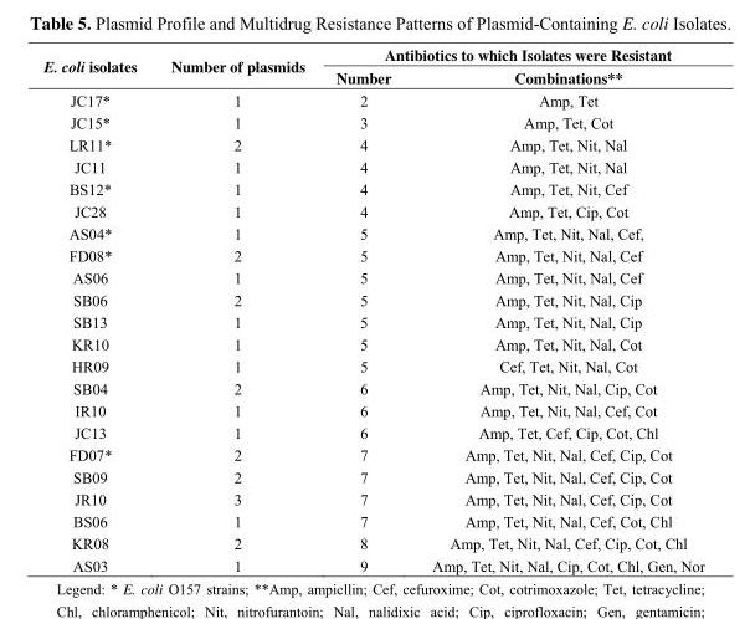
<table><thead><tr><td rowspan="2">E. coli isolates</td><td rowspan="2">Number of plasmids</td><td colspan="2">Antibiotics to which Isolates were Resistant</td></tr><tr><td>Number</td><td>Combinations**</td></tr></thead><tbody><tr><td>JC17*</td><td>1</td><td>2</td><td>Amp, Tet</td></tr><tr><td>JC15*</td><td>1</td><td>3</td><td>Amp, Tet, Cot</td></tr><tr><td>LR11*</td><td>2</td><td>4</td><td>Amp, Tet, Nit, Nal</td></tr><tr><td>JC11</td><td>1</td><td>4</td><td>Amp, Tet, Nit, Nal</td></tr><tr><td>BS12*</td><td>1</td><td>4</td><td>Amp, Tet, Nit, Cef</td></tr><tr><td>JC28</td><td>1</td><td>4</td><td>Amp, Tet, Cip, Cot</td></tr><tr><td>AS04*</td><td>1</td><td>5</td><td>Amp, Tet, Nit, Nal, Cef,</td></tr><tr><td>FD08*</td><td>2</td><td>5</td><td>Amp, Tet, Nit, Nal, Cef</td></tr><tr><td>AS06</td><td>1</td><td>5</td><td>Amp, Tet, Nit, Nal, Cef</td></tr><tr><td>SB06</td><td>2</td><td>5</td><td>Amp, Tet, Nit, Nal, Cip</td></tr><tr><td>SB13</td><td>1</td><td>5</td><td>Amp, Tet, Nit, Nal, Cip</td></tr><tr><td>KR10</td><td>1</td><td>5</td><td>Amp, Tet, Nit, Nal, Cot</td></tr><tr><td>HR09</td><td>1</td><td>5</td><td>Cef, Tet, Nit, Nal, Cot</td></tr><tr><td>SB04</td><td>2</td><td>6</td><td>Amp, Tet, Nit, Nal, Cip, Cot</td></tr><tr><td>IR10</td><td>1</td><td>6</td><td>Amp, Tet, Nit, Nal, Cef, Cot</td></tr><tr><td>JC13</td><td>1</td><td>6</td><td>Amp, Tet, Cef, Cip, Cot, Chl</td></tr><tr><td>FD07*</td><td>2</td><td>7</td><td>Amp, Tet, Nit, Nal, Cef, Cip, Cot</td></tr><tr><td>SB09</td><td>2</td><td>7</td><td>Amp, Tet, Nit, Nal, Cef, Cip, Cot</td></tr><tr><td>JR10</td><td>3</td><td>7</td><td>Amp, Tet, Nit, Nal, Cef, Cip, Cot</td></tr><tr><td>BS06</td><td>1</td><td>7</td><td>Amp, Tet, Nit, Nal, Cef, Cot, Chl</td></tr><tr><td>KR08</td><td>2</td><td>8</td><td>Amp, Tet, Nit, Nal, Cef, Cip, Cot, Chl</td></tr><tr><td>AS03</td><td>1</td><td>9</td><td>Amp, Tet, Nit, Nal, Cip, Cot, Chl, Gen, Nor</td></tr></tbody></table>